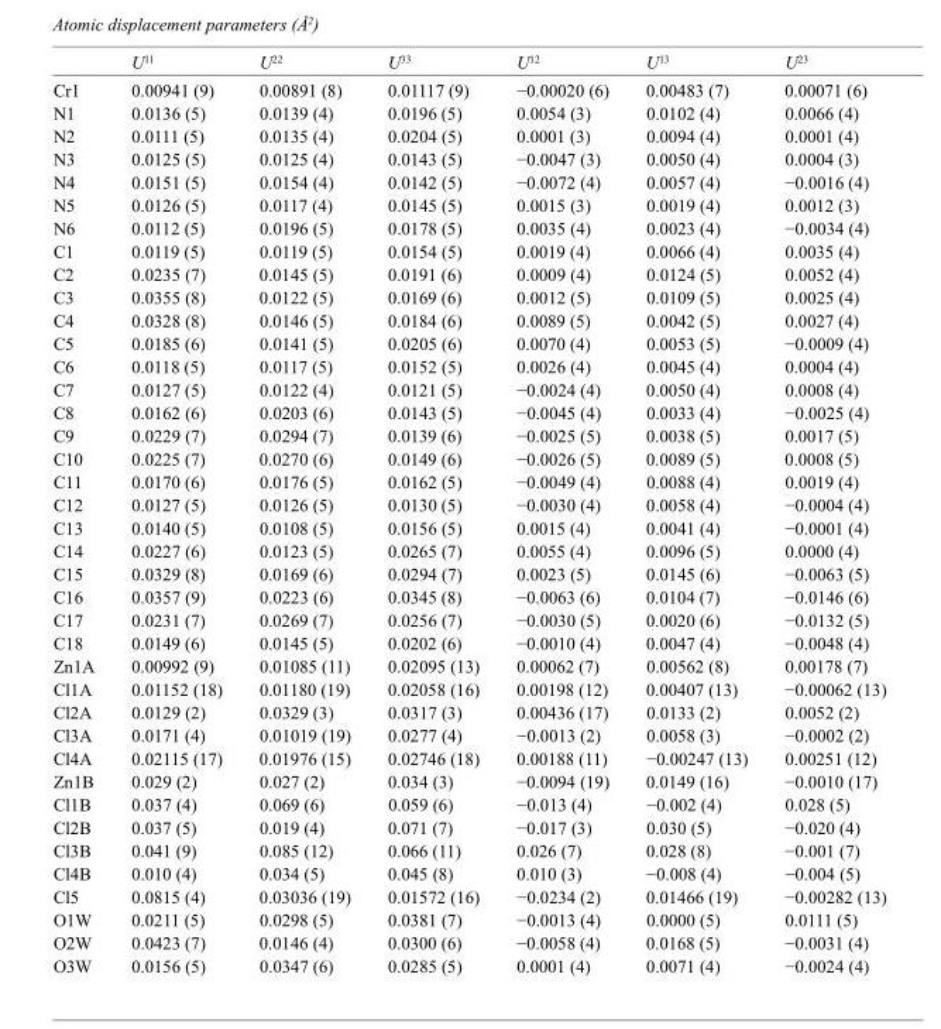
<table><thead><tr><td></td><td>U<sup>11</sup></td><td>U<sup>22</sup></td><td>U<sup>33</sup></td><td>U<sup>12</sup></td><td>U<sup>13</sup></td><td>U<sup>23</sup></td></tr></thead><tbody><tr><td>Cr1</td><td>0.00941 (9)</td><td>0.00891 (8)</td><td>0.01117 (9)</td><td>−0.00020 (6)</td><td>0.00483 (7)</td><td>0.00071 (6)</td></tr><tr><td>N1</td><td>0.0136 (5)</td><td>0.0139 (4)</td><td>0.0196 (5)</td><td>0.0054 (3)</td><td>0.0102 (4)</td><td>0.0066 (4)</td></tr><tr><td>N2</td><td>0.0111 (5)</td><td>0.0135 (4)</td><td>0.0204 (5)</td><td>0.0001 (3)</td><td>0.0094 (4)</td><td>0.0001 (4)</td></tr><tr><td>N3</td><td>0.0125 (5)</td><td>0.0125 (4)</td><td>0.0143 (5)</td><td>−0.0047 (3)</td><td>0.0050 (4)</td><td>0.0004 (3)</td></tr><tr><td>N4</td><td>0.0151 (5)</td><td>0.0154 (4)</td><td>0.0142 (5)</td><td>−0.0072 (4)</td><td>0.0057 (4)</td><td>−0.0016 (4)</td></tr><tr><td>N5</td><td>0.0126 (5)</td><td>0.0117 (4)</td><td>0.0145 (5)</td><td>0.0015 (3)</td><td>0.0019 (4)</td><td>0.0012 (3)</td></tr><tr><td>N6</td><td>0.0112 (5)</td><td>0.0196 (5)</td><td>0.0178 (5)</td><td>0.0035 (4)</td><td>0.0023 (4)</td><td>−0.0034 (4)</td></tr><tr><td>C1</td><td>0.0119 (5)</td><td>0.0119 (5)</td><td>0.0154 (5)</td><td>0.0019 (4)</td><td>0.0066 (4)</td><td>0.0035 (4)</td></tr><tr><td>C2</td><td>0.0235 (7)</td><td>0.0145 (5)</td><td>0.0191 (6)</td><td>0.0009 (4)</td><td>0.0124 (5)</td><td>0.0052 (4)</td></tr><tr><td>C3</td><td>0.0355 (8)</td><td>0.0122 (5)</td><td>0.0169 (6)</td><td>0.0012 (5)</td><td>0.0109 (5)</td><td>0.0025 (4)</td></tr><tr><td>C4</td><td>0.0328 (8)</td><td>0.0146 (5)</td><td>0.0184 (6)</td><td>0.0089 (5)</td><td>0.0042 (5)</td><td>0.0027 (4)</td></tr><tr><td>C5</td><td>0.0185 (6)</td><td>0.0141 (5)</td><td>0.0205 (6)</td><td>0.0070 (4)</td><td>0.0053 (5)</td><td>−0.0009 (4)</td></tr><tr><td>C6</td><td>0.0118 (5)</td><td>0.0117 (5)</td><td>0.0152 (5)</td><td>0.0026 (4)</td><td>0.0045 (4)</td><td>0.0004 (4)</td></tr><tr><td>C7</td><td>0.0127 (5)</td><td>0.0122 (4)</td><td>0.0121 (5)</td><td>−0.0024 (4)</td><td>0.0050 (4)</td><td>0.0008 (4)</td></tr><tr><td>C8</td><td>0.0162 (6)</td><td>0.0203 (6)</td><td>0.0143 (5)</td><td>−0.0045 (4)</td><td>0.0033 (4)</td><td>−0.0025 (4)</td></tr><tr><td>C9</td><td>0.0229 (7)</td><td>0.0294 (7)</td><td>0.0139 (6)</td><td>−0.0025 (5)</td><td>0.0038 (5)</td><td>0.0017 (5)</td></tr><tr><td>C10</td><td>0.0225 (7)</td><td>0.0270 (6)</td><td>0.0149 (6)</td><td>−0.0026 (5)</td><td>0.0089 (5)</td><td>0.0008 (5)</td></tr><tr><td>C11</td><td>0.0170 (6)</td><td>0.0176 (5)</td><td>0.0162 (5)</td><td>−0.0049 (4)</td><td>0.0088 (4)</td><td>0.0019 (4)</td></tr><tr><td>C12</td><td>0.0127 (5)</td><td>0.0126 (5)</td><td>0.0130 (5)</td><td>−0.0030 (4)</td><td>0.0058 (4)</td><td>−0.0004 (4)</td></tr><tr><td>C13</td><td>0.0140 (5)</td><td>0.0108 (5)</td><td>0.0156 (5)</td><td>0.0015 (4)</td><td>0.0041 (4)</td><td>−0.0001 (4)</td></tr><tr><td>C14</td><td>0.0227 (6)</td><td>0.0123 (5)</td><td>0.0265 (7)</td><td>0.0055 (4)</td><td>0.0096 (5)</td><td>0.0000 (4)</td></tr><tr><td>C15</td><td>0.0329 (8)</td><td>0.0169 (6)</td><td>0.0294 (7)</td><td>0.0023 (5)</td><td>0.0145 (6)</td><td>−0.0063 (5)</td></tr><tr><td>C16</td><td>0.0357 (9)</td><td>0.0223 (6)</td><td>0.0345 (8)</td><td>−0.0063 (6)</td><td>0.0104 (7)</td><td>−0.0146 (6)</td></tr><tr><td>C17</td><td>0.0231 (7)</td><td>0.0269 (7)</td><td>0.0256 (7)</td><td>−0.0030 (5)</td><td>0.0020 (6)</td><td>−0.0132 (5)</td></tr><tr><td>C18</td><td>0.0149 (6)</td><td>0.0145 (5)</td><td>0.0202 (6)</td><td>−0.0010 (4)</td><td>0.0047 (4)</td><td>−0.0048 (4)</td></tr><tr><td>Zn1A</td><td>0.00992 (9)</td><td>0.01085 (11)</td><td>0.02095 (13)</td><td>0.00062 (7)</td><td>0.00562 (8)</td><td>0.00178 (7)</td></tr><tr><td>Cl1A</td><td>0.01152 (18)</td><td>0.01180 (19)</td><td>0.02058 (16)</td><td>0.00198 (12)</td><td>0.00407 (13)</td><td>−0.00062 (13)</td></tr><tr><td>Cl2A</td><td>0.0129 (2)</td><td>0.0329 (3)</td><td>0.0317 (3)</td><td>0.00436 (17)</td><td>0.0133 (2)</td><td>0.0052 (2)</td></tr><tr><td>Cl3A</td><td>0.0171 (4)</td><td>0.01019 (19)</td><td>0.0277 (4)</td><td>−0.0013 (2)</td><td>0.0058 (3)</td><td>−0.0002 (2)</td></tr><tr><td>Cl4A</td><td>0.02115 (17)</td><td>0.01976 (15)</td><td>0.02746 (18)</td><td>0.00188 (11)</td><td>−0.00247 (13)</td><td>0.00251 (12)</td></tr><tr><td>Zn1B</td><td>0.029 (2)</td><td>0.027 (2)</td><td>0.034 (3)</td><td>−0.0094 (19)</td><td>0.0149 (16)</td><td>−0.0010 (17)</td></tr><tr><td>Cl1B</td><td>0.037 (4)</td><td>0.069 (6)</td><td>0.059 (6)</td><td>−0.013 (4)</td><td>−0.002 (4)</td><td>0.028 (5)</td></tr><tr><td>Cl2B</td><td>0.037 (5)</td><td>0.019 (4)</td><td>0.071 (7)</td><td>−0.017 (3)</td><td>0.030 (5)</td><td>−0.020 (4)</td></tr><tr><td>Cl3B</td><td>0.041 (9)</td><td>0.085 (12)</td><td>0.066 (11)</td><td>0.026 (7)</td><td>0.028 (8)</td><td>−0.001 (7)</td></tr><tr><td>Cl4B</td><td>0.010 (4)</td><td>0.034 (5)</td><td>0.045 (8)</td><td>0.010 (3)</td><td>−0.008 (4)</td><td>−0.004 (5)</td></tr><tr><td>Cl5</td><td>0.0815 (4)</td><td>0.03036 (19)</td><td>0.01572 (16)</td><td>−0.0234 (2)</td><td>0.01466 (19)</td><td>−0.00282 (13)</td></tr><tr><td>O1W</td><td>0.0211 (5)</td><td>0.0298 (5)</td><td>0.0381 (7)</td><td>−0.0013 (4)</td><td>0.0000 (5)</td><td>0.0111 (5)</td></tr><tr><td>O2W</td><td>0.0423 (7)</td><td>0.0146 (4)</td><td>0.0300 (6)</td><td>−0.0058 (4)</td><td>0.0168 (5)</td><td>−0.0031 (4)</td></tr><tr><td>O3W</td><td>0.0156 (5)</td><td>0.0347 (6)</td><td>0.0285 (5)</td><td>0.0001 (4)</td><td>0.0071 (4)</td><td>−0.0024 (4)</td></tr></tbody></table>